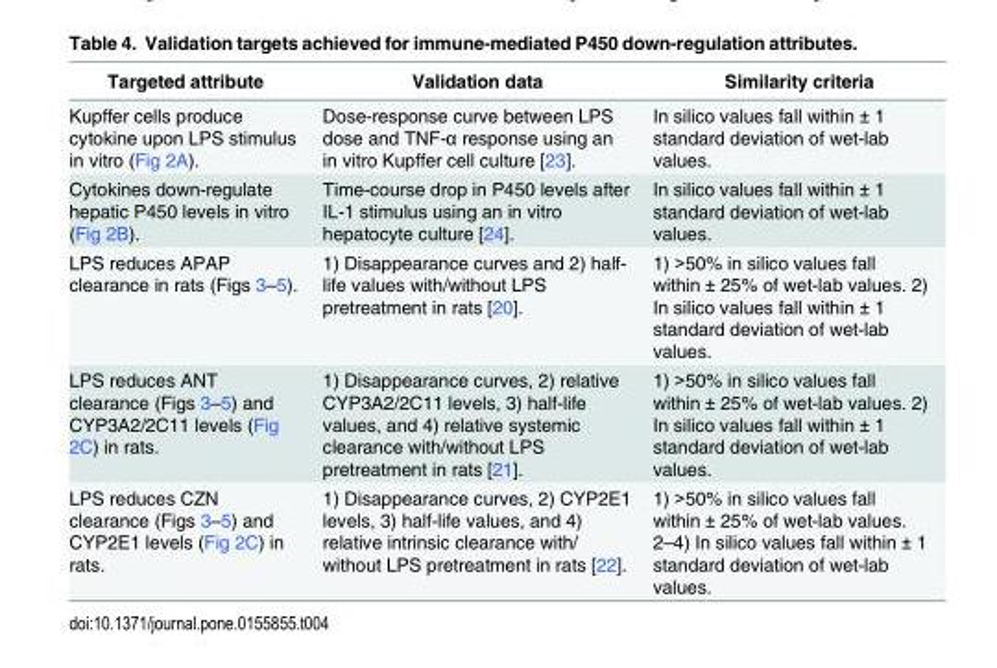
<table><thead><tr><td>Targeted attribute</td><td>Validation data</td><td>Similarity criteria</td></tr></thead><tbody><tr><td>Kupffer cells produce cytokine upon LPS stimulus in vitro (Fig 2A).</td><td>Dose-response curve between LPS dose and TNF-α response using an in vitro Kupffer cell culture [23].</td><td>In silico values fall within ± 1 standard deviation of wet-lab values.</td></tr><tr><td>Cytokines down-regulate hepatic P450 levels in vitro (Fig 2B).</td><td>Time-course drop in P450 levels after IL-1 stimulus using an in vitro hepatocyte culture [24].</td><td>In silico values fall within ± 1 standard deviation of wet-lab values.</td></tr><tr><td>LPS reduces APAP clearance in rats (Figs 3–5).</td><td>1) Disappearance curves and 2) half- life values with/without LPS pretreatment in rats [20].</td><td>1) &gt;50% in silico values fall within ± 25% of wet-lab values. 2) In silico values fall within ± 1 standard deviation of wet-lab values.</td></tr><tr><td>LPS reduces ANT clearance (Figs 3–5) and CYP3A2/2C11 levels (Fig 2C) in rats.</td><td>1) Disappearance curves, 2) relative CYP3A2/2C11 levels, 3) half-life values, and 4) relative systemic clearance with/without LPS pretreatment in rats [21].</td><td>1) &gt;50% in silico values fall within ± 25% of wet-lab values. 2) In silico values fall within ± 1 standard deviation of wet-lab values.</td></tr><tr><td>LPS reduces CZN clearance (Figs 3–5) and CYP2E1 levels (Fig 2C) in rats.</td><td>1) Disappearance curves, 2) CYP2E1 levels, 3) half-life values, and 4) relative intrinsic clearance with/ without LPS pretreatment in rats [22].</td><td>1) &gt;50% in silico values fall within ± 25% of wet-lab values. 2–4) In silico values fall within ± 1 standard deviation of wet-lab values.</td></tr></tbody></table>